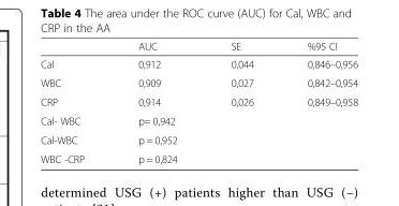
<table><thead><tr><td></td><td>AUC</td><td>SE</td><td>%95 Cl</td></tr></thead><tbody><tr><td>Cal</td><td>0,912</td><td>0,044</td><td>0,846–0,956</td></tr><tr><td>WBC</td><td>0,909</td><td>0,027</td><td>0,842–0,954</td></tr><tr><td>CRP</td><td>0,914</td><td>0,026</td><td>0,849–0,958</td></tr><tr><td>Cal- WBC</td><td>p= 0,942</td><td></td><td></td></tr><tr><td>Cal-WBC</td><td>p = 0,952</td><td></td><td></td></tr><tr><td>WBC -CRP</td><td>p = 0,824</td><td></td><td></td></tr></tbody></table>